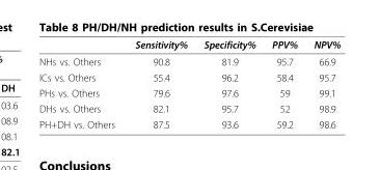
<table><thead><tr><td></td><td>Sensitivity%</td><td>Specificity%</td><td>PPV%</td><td>NPV%</td></tr></thead><tbody><tr><td>NHs vs. Others</td><td>90.8</td><td>81.9</td><td>95.7</td><td>66.9</td></tr><tr><td>ICs vs. Others</td><td>55.4</td><td>96.2</td><td>58.4</td><td>95.7</td></tr><tr><td>PHs vs. Others</td><td>79.6</td><td>97.6</td><td>59</td><td>99.1</td></tr><tr><td>DHs vs. Others</td><td>82.1</td><td>95.7</td><td>52</td><td>98.9</td></tr><tr><td>PH+DH vs. Others</td><td>87.5</td><td>93.6</td><td>59.2</td><td>98.6</td></tr></tbody></table>